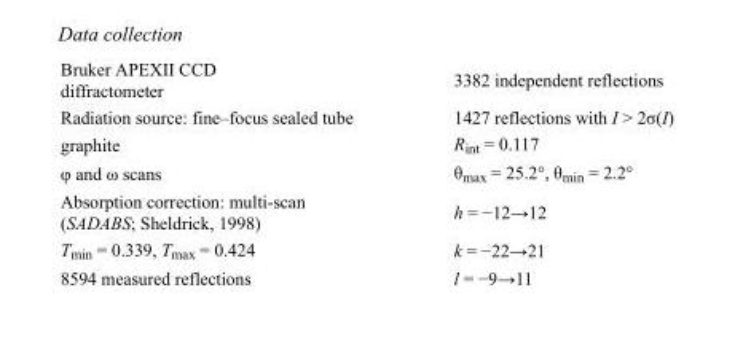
<table><tbody><tr><td>Bruker APEXII CCD diffractometer</td><td>3382 independent reflections</td></tr><tr><td>Radiation source: fine–focus sealed tube</td><td>1427 reflections with I &gt; 2σ(I)</td></tr><tr><td>graphite</td><td>R<sub>int</sub> = 0.117</td></tr><tr><td>φ and ω scans</td><td>θ<sub>max</sub> = 25.2°, θ<sub>min</sub> = 2.2°</td></tr><tr><td>Absorption correction: multi-scan (SADABS; Sheldrick, 1998)</td><td>h = −12→12</td></tr><tr><td>T<sub>min</sub> = 0.339, T<sub>max</sub> = 0.424</td><td>k = −22→21</td></tr><tr><td>8594 measured reflections</td><td>l = −9→11</td></tr></tbody></table>